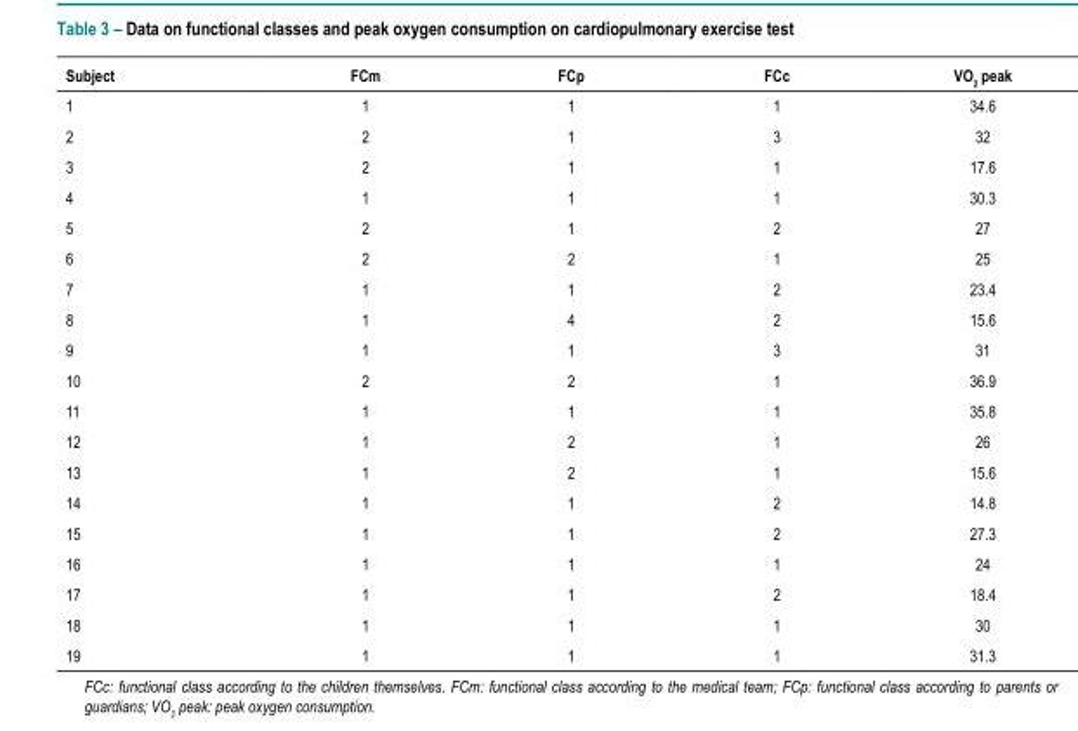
<table><thead><tr><td>Subject</td><td>FCm</td><td>FCp</td><td>FCc</td><td>VO<sub>2</sub> peak</td></tr></thead><tbody><tr><td>1</td><td>1</td><td>1</td><td>1</td><td>34.6</td></tr><tr><td>2</td><td>2</td><td>1</td><td>3</td><td>32</td></tr><tr><td>3</td><td>2</td><td>1</td><td>1</td><td>17.6</td></tr><tr><td>4</td><td>1</td><td>1</td><td>1</td><td>30.3</td></tr><tr><td>5</td><td>2</td><td>1</td><td>2</td><td>27</td></tr><tr><td>6</td><td>2</td><td>2</td><td>1</td><td>25</td></tr><tr><td>7</td><td>1</td><td>1</td><td>2</td><td>23.4</td></tr><tr><td>8</td><td>1</td><td>4</td><td>2</td><td>15.6</td></tr><tr><td>9</td><td>1</td><td>1</td><td>3</td><td>31</td></tr><tr><td>10</td><td>2</td><td>2</td><td>1</td><td>36.9</td></tr><tr><td>11</td><td>1</td><td>1</td><td>1</td><td>35.8</td></tr><tr><td>12</td><td>1</td><td>2</td><td>1</td><td>26</td></tr><tr><td>13</td><td>1</td><td>2</td><td>1</td><td>15.6</td></tr><tr><td>14</td><td>1</td><td>1</td><td>2</td><td>14.8</td></tr><tr><td>15</td><td>1</td><td>1</td><td>2</td><td>27.3</td></tr><tr><td>16</td><td>1</td><td>1</td><td>1</td><td>24</td></tr><tr><td>17</td><td>1</td><td>1</td><td>2</td><td>18.4</td></tr><tr><td>18</td><td>1</td><td>1</td><td>1</td><td>30</td></tr><tr><td>19</td><td>1</td><td>1</td><td>1</td><td>31.3</td></tr></tbody></table>